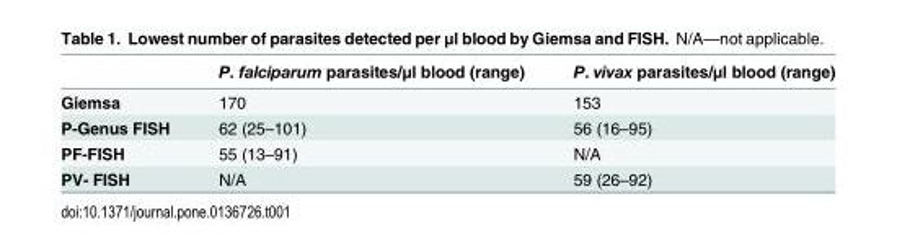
<table><thead><tr><td></td><td>P. falciparum parasites/μl blood (range)</td><td>P. vivax parasites/μl blood (range)</td></tr></thead><tbody><tr><td>Giemsa</td><td>170</td><td>153</td></tr><tr><td>P-Genus FISH</td><td>62 (25–101)</td><td>56 (16–95)</td></tr><tr><td>PF-FISH</td><td>55 (13–91)</td><td>N/A</td></tr><tr><td>PV- FISH</td><td>N/A</td><td>59 (26–92)</td></tr></tbody></table>